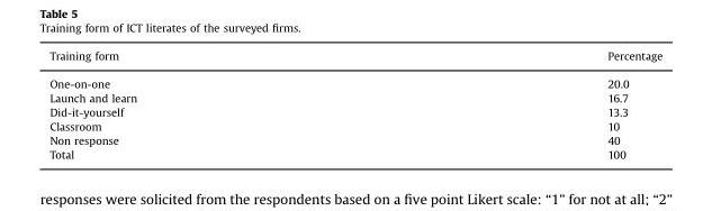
<table><thead><tr><td>Training form</td><td>Percentage</td></tr></thead><tbody><tr><td>One-on-one</td><td>20.0</td></tr><tr><td>Launch and learn</td><td>16.7</td></tr><tr><td>Did-it-yourself</td><td>13.3</td></tr><tr><td>Classroom</td><td>10</td></tr><tr><td>Non response</td><td>40</td></tr><tr><td>Total</td><td>100</td></tr></tbody></table>